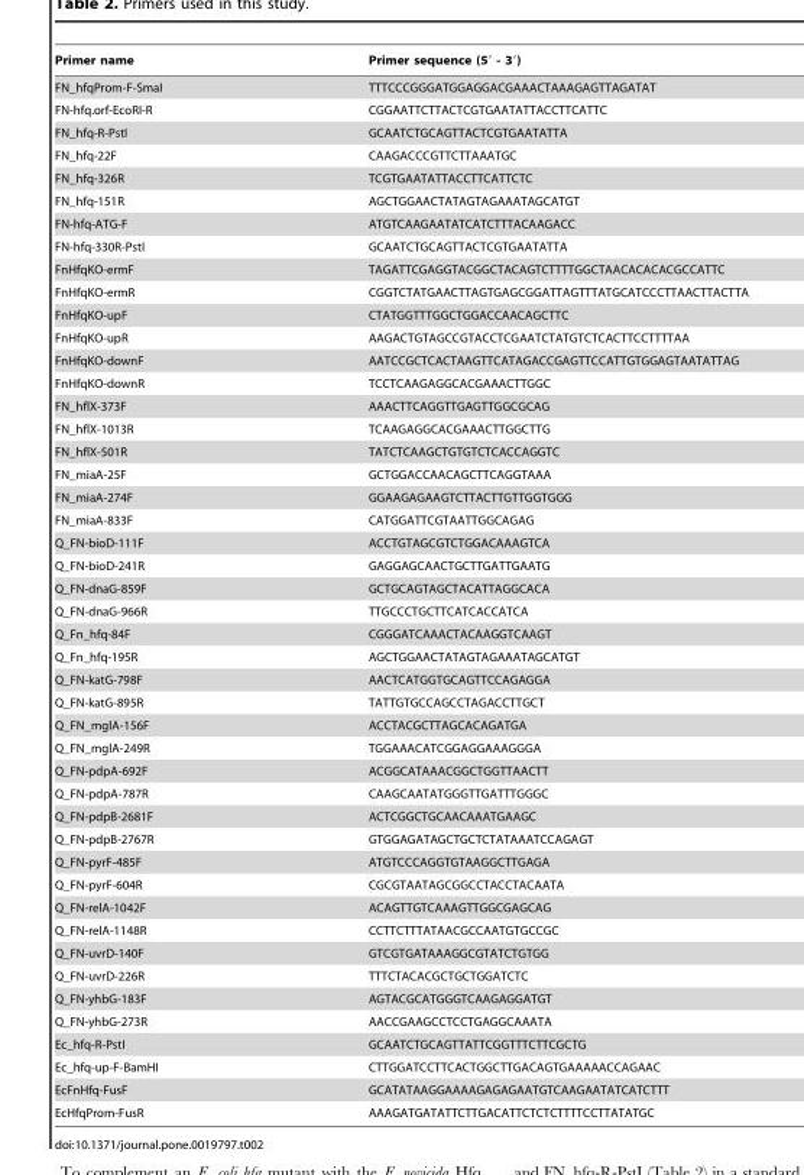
<table><thead><tr><td>Primer name</td><td>Primer sequence (5′ - 3′)</td></tr></thead><tbody><tr><td>FN_hfqProm-F-SmaI</td><td>TTTCCCGGGATGGAGGACGAAACTAAAGAGTTAGATAT</td></tr><tr><td>FN-hfq.orf-EcoRI-R</td><td>CGGAATTCTTACTCGTGAATATTACCTTCATTC</td></tr><tr><td>FN_hfq-R-PstI</td><td>GCAATCTGCAGTTACTCGTGAATATTA</td></tr><tr><td>FN_hfq-22F</td><td>CAAGACCCGTTCTTAAATGC</td></tr><tr><td>FN_hfq-326R</td><td>TCGTGAATATTACCTTCATTCTC</td></tr><tr><td>FN_hfq-151R</td><td>AGCTGGAACTATAGTAGAAATAGCATGT</td></tr><tr><td>FN-hfq-ATG-F</td><td>ATGTCAAGAATATCATCTTTACAAGACC</td></tr><tr><td>FN-hfq-330R-PstI</td><td>GCAATCTGCAGTTACTCGTGAATATTA</td></tr><tr><td>FnHfqKO-ermF</td><td>TAGATTCGAGGTACGGCTACAGTCTTTTGGCTAACACACACGCCATTC</td></tr><tr><td>FnHfqKO-ermR</td><td>CGGTCTATGAACTTAGTGAGCGGATTAGTTTATGCATCCCTTAACTTACTTA</td></tr><tr><td>FnHfqKO-upF</td><td>CTATGGTTTGGCTGGACCAACAGCTTC</td></tr><tr><td>FnHfqKO-upR</td><td>AAGACTGTAGCCGTACCTCGAATCTATGTCTCACTTCCTTTTAA</td></tr><tr><td>FnHfqKO-downF</td><td>AATCCGCTCACTAAGTTCATAGACCGAGTTCCATTGTGGAGTAATATTAG</td></tr><tr><td>FnHfqKO-downR</td><td>TCCTCAAGAGGCACGAAACTTGGC</td></tr><tr><td>FN_hflX-373F</td><td>AAACTTCAGGTTGAGTTGGCGCAG</td></tr><tr><td>FN_hflX-1013R</td><td>TCAAGAGGCACGAAACTTGGCTTG</td></tr><tr><td>FN_hflX-501R</td><td>TATCTCAAGCTGTGTCTCACCAGGTC</td></tr><tr><td>FN_miaA-25F</td><td>GCTGGACCAACAGCTTCAGGTAAA</td></tr><tr><td>FN_miaA-274F</td><td>GGAAGAGAAGTCTTACTTGTTGGTGGG</td></tr><tr><td>FN_miaA-833F</td><td>CATGGATTCGTAATTGGCAGAG</td></tr><tr><td>Q_FN-bioD-111F</td><td>ACCTGTAGCGTCTGGACAAAGTCA</td></tr><tr><td>Q_FN-bioD-241R</td><td>GAGGAGCAACTGCTTGATTGAATG</td></tr><tr><td>Q_FN-dnaG-859F</td><td>GCTGCAGTAGCTACATTAGGCACA</td></tr><tr><td>Q_FN-dnaG-966R</td><td>TTGCCCTGCTTCATCACCATCA</td></tr><tr><td>Q_Fn_hfq-84F</td><td>CGGGATCAAACTACAAGGTCAAGT</td></tr><tr><td>Q_Fn_hfq-195R</td><td>AGCTGGAACTATAGTAGAAATAGCATGT</td></tr><tr><td>Q_FN-katG-798F</td><td>AACTCATGGTGCAGTTCCAGAGGA</td></tr><tr><td>Q_FN-katG-895R</td><td>TATTGTGCCAGCCTAGACCTTGCT</td></tr><tr><td>Q_FN_mglA-156F</td><td>ACCTACGCTTAGCACAGATGA</td></tr><tr><td>Q_FN_mglA-249R</td><td>TGGAAACATCGGAGGAAAGGGA</td></tr><tr><td>Q_FN-pdpA-692F</td><td>ACGGCATAAACGGCTGGTTAACTT</td></tr><tr><td>Q_FN-pdpA-787R</td><td>CAAGCAATATGGGTTGATTTGGGC</td></tr><tr><td>Q_FN-pdpB-2681F</td><td>ACTCGGCTGCAACAAATGAAGC</td></tr><tr><td>Q_FN-pdpB-2767R</td><td>GTGGAGATAGCTGCTCTATAAATCCAGAGT</td></tr><tr><td>Q_FN-pyrF-485F</td><td>ATGTCCCAGGTGTAAGGCTTGAGA</td></tr><tr><td>Q_FN-pyrF-604R</td><td>CGCGTAATAGCGGCCTACCTACAATA</td></tr><tr><td>Q_FN-relA-1042F</td><td>ACAGTTGTCAAAGTTGGCGAGCAG</td></tr><tr><td>Q_FN-relA-1148R</td><td>CCTTCTTTATAACGCCAATGTGCCGC</td></tr><tr><td>Q_FN-uvrD-140F</td><td>GTCGTGATAAAGGCGTATCTGTGG</td></tr><tr><td>Q_FN-uvrD-226R</td><td>TTTCTACACGCTGCTGGATCTC</td></tr><tr><td>Q_FN-yhbG-183F</td><td>AGTACGCATGGGTCAAGAGGATGT</td></tr><tr><td>Q_FN-yhbG-273R</td><td>AACCGAAGCCTCCTGAGGCAAATA</td></tr><tr><td>Ec_hfq-R-PstI</td><td>GCAATCTGCAGTTATTCGGTTTCTTCGCTG</td></tr><tr><td>Ec_hfq-up-F-BamHI</td><td>CTTGGATCCTTCACTGGCTTGACAGTGAAAAACCAGAAC</td></tr><tr><td>EcFnHfq-FusF</td><td>GCATATAAGGAAAAGAGAGAATGTCAAGAATATCATCTTT</td></tr><tr><td>EcHfqProm-FusR</td><td>AAAGATGATATTCTTGACATTCTCTCTTTTCCTTATATGC</td></tr></tbody></table>